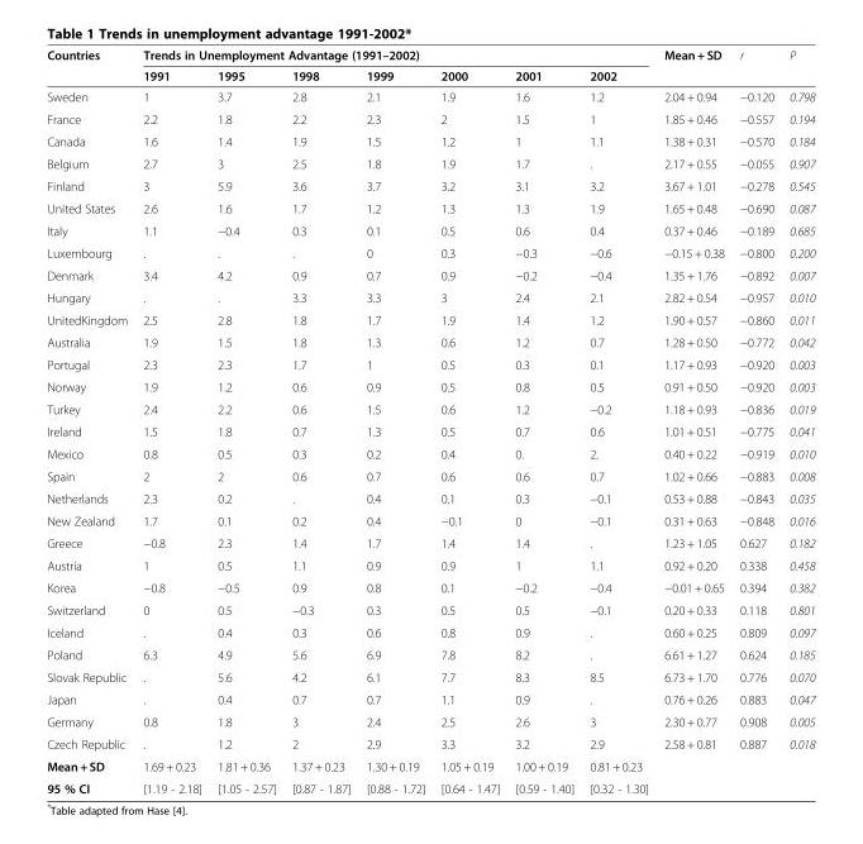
<table><thead><tr><td rowspan="2">Countries</td><td colspan="7">Trends in Unemployment Advantage (1991–2002)</td><td rowspan="2">Mean + SD</td><td rowspan="2">r</td><td rowspan="2">P</td></tr><tr><td>1991</td><td>1995</td><td>1998</td><td>1999</td><td>2000</td><td>2001</td><td>2002</td></tr></thead><tbody><tr><td>Sweden</td><td>1</td><td>3.7</td><td>2.8</td><td>2.1</td><td>1.9</td><td>1.6</td><td>1.2</td><td>2.04 + 0.94</td><td>−0.120</td><td>0.798</td></tr><tr><td>France</td><td>2.2</td><td>1.8</td><td>2.2</td><td>2.3</td><td>2</td><td>1.5</td><td>1</td><td>1.85 + 0.46</td><td>−0.557</td><td>0.194</td></tr><tr><td>Canada</td><td>1.6</td><td>1.4</td><td>1.9</td><td>1.5</td><td>1.2</td><td>1</td><td>1.1</td><td>1.38 + 0.31</td><td>−0.570</td><td>0.184</td></tr><tr><td>Belgium</td><td>2.7</td><td>3</td><td>2.5</td><td>1.8</td><td>1.9</td><td>1.7</td><td>.</td><td>2.17 + 0.55</td><td>−0.055</td><td>0.907</td></tr><tr><td>Finland</td><td>3</td><td>5.9</td><td>3.6</td><td>3.7</td><td>3.2</td><td>3.1</td><td>3.2</td><td>3.67 + 1.01</td><td>−0.278</td><td>0.545</td></tr><tr><td>United States</td><td>2.6</td><td>1.6</td><td>1.7</td><td>1.2</td><td>1.3</td><td>1.3</td><td>1.9</td><td>1.65 + 0.48</td><td>−0.690</td><td>0.087</td></tr><tr><td>Italy</td><td>1.1</td><td>−0.4</td><td>0.3</td><td>0.1</td><td>0.5</td><td>0.6</td><td>0.4</td><td>0.37 + 0.46</td><td>−0.189</td><td>0.685</td></tr><tr><td>Luxembourg</td><td>.</td><td>.</td><td>.</td><td>0</td><td>0.3</td><td>−0.3</td><td>−0.6</td><td>−0.15 + 0.38</td><td>−0.800</td><td>0.200</td></tr><tr><td>Denmark</td><td>3.4</td><td>4.2</td><td>0.9</td><td>0.7</td><td>0.9</td><td>−0.2</td><td>−0.4</td><td>1.35 + 1.76</td><td>−0.892</td><td>0.007</td></tr><tr><td>Hungary</td><td>.</td><td>.</td><td>3.3</td><td>3.3</td><td>3</td><td>2.4</td><td>2.1</td><td>2.82 + 0.54</td><td>−0.957</td><td>0.010</td></tr><tr><td>UnitedKingdom</td><td>2.5</td><td>2.8</td><td>1.8</td><td>1.7</td><td>1.9</td><td>1.4</td><td>1.2</td><td>1.90 + 0.57</td><td>−0.860</td><td>0.011</td></tr><tr><td>Australia</td><td>1.9</td><td>1.5</td><td>1.8</td><td>1.3</td><td>0.6</td><td>1.2</td><td>0.7</td><td>1.28 + 0.50</td><td>−0.772</td><td>0.042</td></tr><tr><td>Portugal</td><td>2.3</td><td>2.3</td><td>1.7</td><td>1</td><td>0.5</td><td>0.3</td><td>0.1</td><td>1.17 + 0.93</td><td>−0.920</td><td>0.003</td></tr><tr><td>Norway</td><td>1.9</td><td>1.2</td><td>0.6</td><td>0.9</td><td>0.5</td><td>0.8</td><td>0.5</td><td>0.91 + 0.50</td><td>−0.920</td><td>0.003</td></tr><tr><td>Turkey</td><td>2.4</td><td>2.2</td><td>0.6</td><td>1.5</td><td>0.6</td><td>1.2</td><td>−0.2</td><td>1.18 + 0.93</td><td>−0.836</td><td>0.019</td></tr><tr><td>Ireland</td><td>1.5</td><td>1.8</td><td>0.7</td><td>1.3</td><td>0.5</td><td>0.7</td><td>0.6</td><td>1.01 + 0.51</td><td>−0.775</td><td>0.041</td></tr><tr><td>Mexico</td><td>0.8</td><td>0.5</td><td>0.3</td><td>0.2</td><td>0.4</td><td>0.</td><td>2.</td><td>0.40 + 0.22</td><td>−0.919</td><td>0.010</td></tr><tr><td>Spain</td><td>2</td><td>2</td><td>0.6</td><td>0.7</td><td>0.6</td><td>0.6</td><td>0.7</td><td>1.02 + 0.66</td><td>−0.883</td><td>0.008</td></tr><tr><td>Netherlands</td><td>2.3</td><td>0.2</td><td>.</td><td>0.4</td><td>0.1</td><td>0.3</td><td>−0.1</td><td>0.53 + 0.88</td><td>−0.843</td><td>0.035</td></tr><tr><td>New Zealand</td><td>1.7</td><td>0.1</td><td>0.2</td><td>0.4</td><td>−0.1</td><td>0</td><td>−0.1</td><td>0.31 + 0.63</td><td>−0.848</td><td>0.016</td></tr><tr><td>Greece</td><td>−0.8</td><td>2.3</td><td>1.4</td><td>1.7</td><td>1.4</td><td>1.4</td><td>.</td><td>1.23 + 1.05</td><td>0.627</td><td>0.182</td></tr><tr><td>Austria</td><td>1</td><td>0.5</td><td>1.1</td><td>0.9</td><td>0.9</td><td>1</td><td>1.1</td><td>0.92 + 0.20</td><td>0.338</td><td>0.458</td></tr><tr><td>Korea</td><td>−0.8</td><td>−0.5</td><td>0.9</td><td>0.8</td><td>0.1</td><td>−0.2</td><td>−0.4</td><td>−0.01 + 0.65</td><td>0.394</td><td>0.382</td></tr><tr><td>Switzerland</td><td>0</td><td>0.5</td><td>−0.3</td><td>0.3</td><td>0.5</td><td>0.5</td><td>−0.1</td><td>0.20 + 0.33</td><td>0.118</td><td>0.801</td></tr><tr><td>Iceland</td><td>.</td><td>0.4</td><td>0.3</td><td>0.6</td><td>0.8</td><td>0.9</td><td>.</td><td>0.60 + 0.25</td><td>0.809</td><td>0.097</td></tr><tr><td>Poland</td><td>6.3</td><td>4.9</td><td>5.6</td><td>6.9</td><td>7.8</td><td>8.2</td><td>.</td><td>6.61 + 1.27</td><td>0.624</td><td>0.185</td></tr><tr><td>Slovak Republic</td><td>.</td><td>5.6</td><td>4.2</td><td>6.1</td><td>7.7</td><td>8.3</td><td>8.5</td><td>6.73 + 1.70</td><td>0.776</td><td>0.070</td></tr><tr><td>Japan</td><td>.</td><td>0.4</td><td>0.7</td><td>0.7</td><td>1.1</td><td>0.9</td><td>.</td><td>0.76 + 0.26</td><td>0.883</td><td>0.047</td></tr><tr><td>Germany</td><td>0.8</td><td>1.8</td><td>3</td><td>2.4</td><td>2.5</td><td>2.6</td><td>3</td><td>2.30 + 0.77</td><td>0.908</td><td>0.005</td></tr><tr><td>Czech Republic</td><td>.</td><td>1.2</td><td>2</td><td>2.9</td><td>3.3</td><td>3.2</td><td>2.9</td><td>2.58 + 0.81</td><td>0.887</td><td>0.018</td></tr><tr><td>Mean + SD</td><td>1.69 + 0.23</td><td>1.81 + 0.36</td><td>1.37 + 0.23</td><td>1.30 + 0.19</td><td>1.05 + 0.19</td><td>1.00 + 0.19</td><td>0.81 + 0.23</td><td></td><td></td><td></td></tr><tr><td>95 % CI</td><td>[1.19 - 2.18]</td><td>[1.05 - 2.57]</td><td>[0.87 - 1.87]</td><td>[0.88 - 1.72]</td><td>[0.64 - 1.47]</td><td>[0.59 - 1.40]</td><td>[0.32 - 1.30]</td><td></td><td></td><td></td></tr></tbody></table>